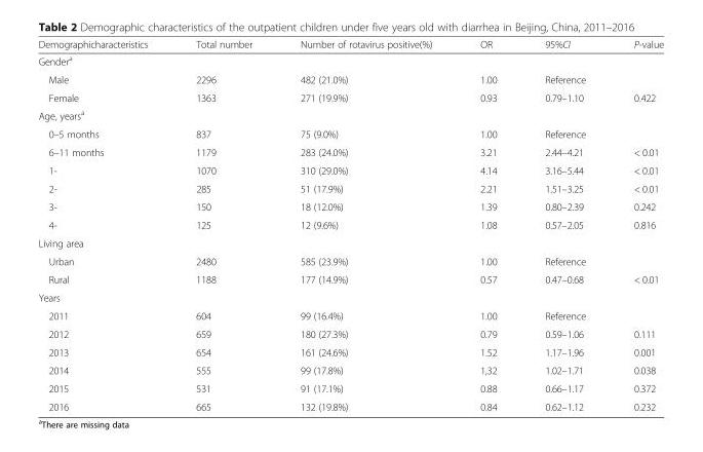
<table><thead><tr><td>Demographicharacteristics</td><td>Total number</td><td>Number of rotavirus positive(%)</td><td>OR</td><td>95%CI</td><td>P-value</td></tr></thead><tbody><tr><td colspan="6">Gender<sup>a</sup></td></tr><tr><td>Male</td><td>2296</td><td>482 (21.0%)</td><td>1.00</td><td>Reference</td><td></td></tr><tr><td>Female</td><td>1363</td><td>271 (19.9%)</td><td>0.93</td><td>0.79–1.10</td><td>0.422</td></tr><tr><td colspan="6">Age, years<sup>a</sup></td></tr><tr><td>0–5 months</td><td>837</td><td>75 (9.0%)</td><td>1.00</td><td>Reference</td><td></td></tr><tr><td>6–11 months</td><td>1179</td><td>283 (24.0%)</td><td>3.21</td><td>2.44–4.21</td><td>&lt; 0.01</td></tr><tr><td>1-</td><td>1070</td><td>310 (29.0%)</td><td>4.14</td><td>3.16–5.44</td><td>&lt; 0.01</td></tr><tr><td>2-</td><td>285</td><td>51 (17.9%)</td><td>2.21</td><td>1.51–3.25</td><td>&lt; 0.01</td></tr><tr><td>3-</td><td>150</td><td>18 (12.0%)</td><td>1.39</td><td>0.80–2.39</td><td>0.242</td></tr><tr><td>4-</td><td>125</td><td>12 (9.6%)</td><td>1.08</td><td>0.57–2.05</td><td>0.816</td></tr><tr><td colspan="6">Living area</td></tr><tr><td>Urban</td><td>2480</td><td>585 (23.9%)</td><td>1.00</td><td>Reference</td><td></td></tr><tr><td>Rural</td><td>1188</td><td>177 (14.9%)</td><td>0.57</td><td>0.47–0.68</td><td>&lt; 0.01</td></tr><tr><td colspan="6">Years</td></tr><tr><td>2011</td><td>604</td><td>99 (16.4%)</td><td>1.00</td><td>Reference</td><td></td></tr><tr><td>2012</td><td>659</td><td>180 (27.3%)</td><td>0.79</td><td>0.59–1.06</td><td>0.111</td></tr><tr><td>2013</td><td>654</td><td>161 (24.6%)</td><td>1.52</td><td>1.17–1.96</td><td>0.001</td></tr><tr><td>2014</td><td>555</td><td>99 (17.8%)</td><td>1,32</td><td>1.02–1.71</td><td>0.038</td></tr><tr><td>2015</td><td>531</td><td>91 (17.1%)</td><td>0.88</td><td>0.66–1.17</td><td>0.372</td></tr><tr><td>2016</td><td>665</td><td>132 (19.8%)</td><td>0.84</td><td>0.62–1.12</td><td>0.232</td></tr></tbody></table>